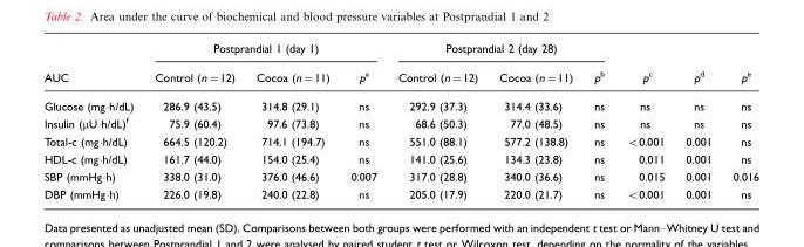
<table><thead><tr><td rowspan="2">AUC</td><td colspan="3">Postprandial 1 (day 1)</td><td colspan="3">Postprandial 2 (day 28)</td><td rowspan="2">p<sup>c</sup></td><td rowspan="2">p<sup>d</sup></td><td rowspan="2">p<sup>e</sup></td></tr><tr><td>Control (n=12)</td><td>Cocoa (n=11)</td><td>p<sup>a</sup></td><td>Control (n=12)</td><td>Cocoa (n=11)</td><td>p<sup>b</sup></td></tr></thead><tbody><tr><td>Glucose (mg·h/dL)</td><td>286.9 (43.5)</td><td>314.8 (29.1)</td><td>ns</td><td>292.9 (37.3)</td><td>314.4 (33.6)</td><td>ns</td><td>ns</td><td>ns</td><td>ns</td></tr><tr><td>Insulin (µU·h/dL)<sup>f</sup></td><td>75.9 (60.4)</td><td>97.6 (73.8)</td><td>ns</td><td>68.6 (50.3)</td><td>77.0 (48.5)</td><td>ns</td><td>ns</td><td>ns</td><td>ns</td></tr><tr><td>Total-c (mg·h/dL)</td><td>664.5 (120.2)</td><td>714.1 (194.7)</td><td>ns</td><td>551.0 (88.1)</td><td>577.2 (138.8)</td><td>ns</td><td>&lt;0.001</td><td>0.001</td><td>ns</td></tr><tr><td>HDL-c (mg·h/dL)</td><td>161.7 (44.0)</td><td>154.0 (25.4)</td><td>ns</td><td>141.0 (25.6)</td><td>134.3 (23.8)</td><td>ns</td><td>0.011</td><td>0.001</td><td>ns</td></tr><tr><td>SBP (mmHg·h)</td><td>338.0 (31.0)</td><td>376.0 (46.6)</td><td>0.007</td><td>317.0 (28.8)</td><td>340.0 (36.6)</td><td>ns</td><td>0.015</td><td>0.001</td><td>0.016</td></tr><tr><td>DBP (mmHg·h)</td><td>226.0 (19.8)</td><td>240.0 (22.8)</td><td>ns</td><td>205.0 (17.9)</td><td>220.0 (21.7)</td><td>ns</td><td>&lt;0.001</td><td>0.001</td><td>ns</td></tr></tbody></table>